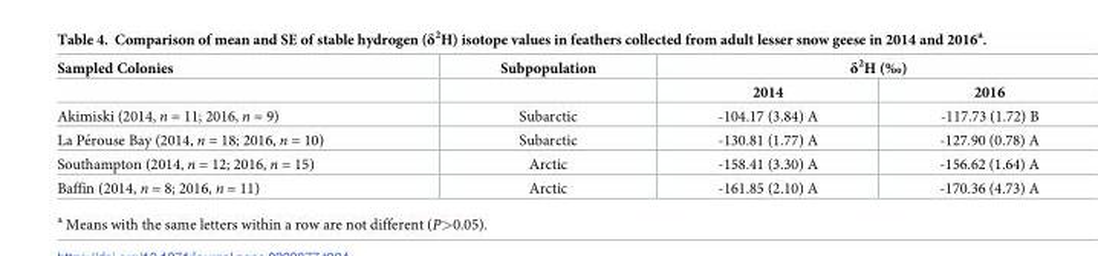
<table><thead><tr><td rowspan="2">Sampled Colonies</td><td rowspan="2">Subpopulation</td><td colspan="2">δ<sup>2</sup>H (‰)</td></tr><tr><td>2014</td><td>2016</td></tr></thead><tbody><tr><td>Akimiski (2014, n = 11; 2016, n = 9)</td><td>Subarctic</td><td>-104.17 (3.84) A</td><td>-117.73 (1.72) B</td></tr><tr><td>La Pe´rouse Bay (2014, n = 18; 2016, n = 10)</td><td>Subarctic</td><td>-130.81 (1.77) A</td><td>-127.90 (0.78) A</td></tr><tr><td>Southampton (2014, n = 12; 2016, n = 15)</td><td>Arctic</td><td>-158.41 (3.30) A</td><td>-156.62 (1.64) A</td></tr><tr><td>Baffin (2014, n = 8; 2016, n = 11)</td><td>Arctic</td><td>-161.85 (2.10) A</td><td>-170.36 (4.73) A</td></tr></tbody></table>